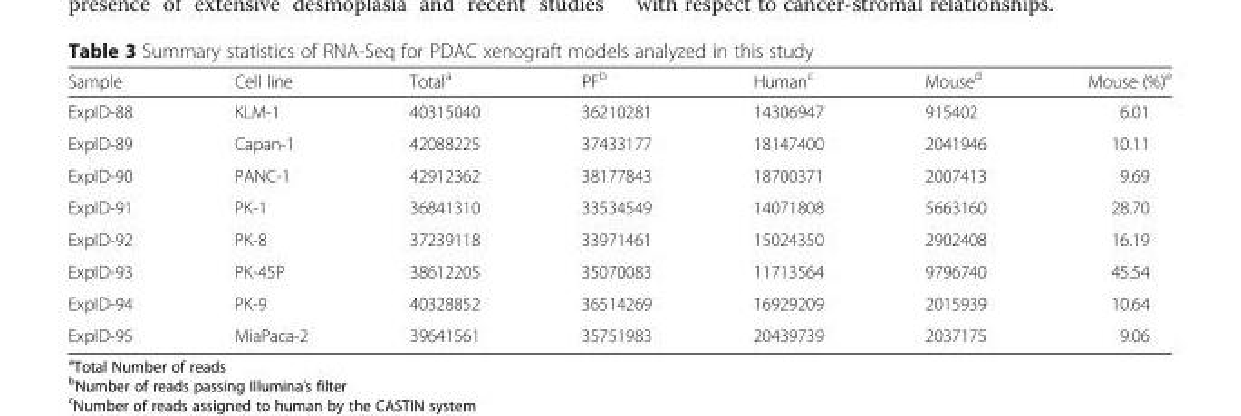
<table><thead><tr><td>Sample</td><td>Cell line</td><td>Total<sup>a</sup></td><td>PF<sup>b</sup></td><td>Human<sup>c</sup></td><td>Mouse<sup>d</sup></td><td>Mouse (%)<sup>e</sup></td></tr></thead><tbody><tr><td>ExpID-88</td><td>KLM-1</td><td>40315040</td><td>36210281</td><td>14306947</td><td>915402</td><td>6.01</td></tr><tr><td>ExpID-89</td><td>Capan-1</td><td>42088225</td><td>37433177</td><td>18147400</td><td>2041946</td><td>10.11</td></tr><tr><td>ExpID-90</td><td>PANC-1</td><td>42912362</td><td>38177843</td><td>18700371</td><td>2007413</td><td>9.69</td></tr><tr><td>ExpID-91</td><td>PK-1</td><td>36841310</td><td>33534549</td><td>14071808</td><td>5663160</td><td>28.70</td></tr><tr><td>ExpID-92</td><td>PK-8</td><td>37239118</td><td>33971461</td><td>15024350</td><td>2902408</td><td>16.19</td></tr><tr><td>ExpID-93</td><td>PK-45P</td><td>38612205</td><td>35070083</td><td>11713564</td><td>9796740</td><td>45.54</td></tr><tr><td>ExpID-94</td><td>PK-9</td><td>40328852</td><td>36514269</td><td>16929209</td><td>2015939</td><td>10.64</td></tr><tr><td>ExpID-95</td><td>MiaPaca-2</td><td>39641561</td><td>35751983</td><td>20439739</td><td>2037175</td><td>9.06</td></tr></tbody></table>